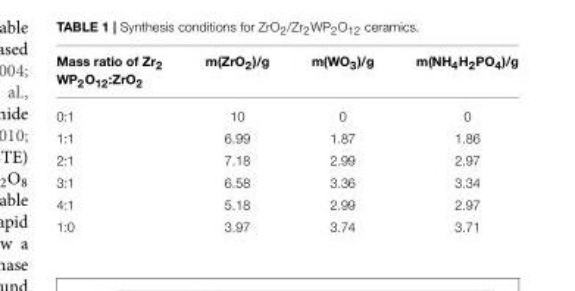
<table><thead><tr><td>Mass ratio of Zr<sub>2</sub> WP<sub>2</sub>O<sub>12</sub>:ZrO<sub>2</sub></td><td>m(ZrO<sub>2</sub>)/g</td><td>m(WO<sub>3</sub>)/g</td><td>m(NH<sub>4</sub>H<sub>2</sub>PO<sub>4</sub>)/g</td></tr></thead><tbody><tr><td>0:1</td><td>10</td><td>0</td><td>0</td></tr><tr><td>1:1</td><td>6.99</td><td>1.87</td><td>1.86</td></tr><tr><td>2:1</td><td>7.18</td><td>2.99</td><td>2.97</td></tr><tr><td>3:1</td><td>6.58</td><td>3.36</td><td>3.34</td></tr><tr><td>4:1</td><td>5.18</td><td>2.99</td><td>2.97</td></tr><tr><td>1:0</td><td>3.97</td><td>3.74</td><td>3.71</td></tr></tbody></table>